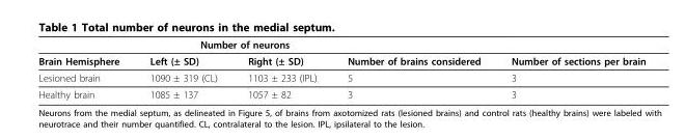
<table><thead><tr><td rowspan="2">Brain Hemisphere</td><td colspan="2">Number of neurons</td><td rowspan="2">Number of brains considered</td><td rowspan="2">Number of sections per brain</td></tr><tr><td>Left (± SD)</td><td>Right (± SD)</td></tr></thead><tbody><tr><td>Lesioned brain</td><td>1090 ± 319 (CL)</td><td>1103 ± 233 (IPL)</td><td>5</td><td>3</td></tr><tr><td>Healthy brain</td><td>1085 ± 137</td><td>1057 ± 82</td><td>3</td><td>3</td></tr></tbody></table>